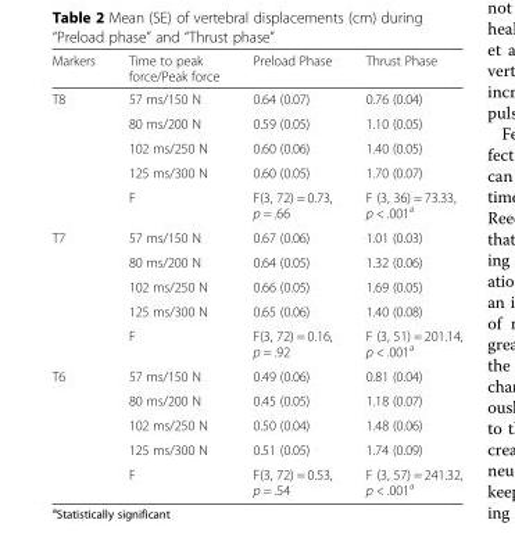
<table><thead><tr><td>Markers</td><td>Time to peak force/Peak force</td><td>Preload Phase</td><td>Thrust Phase</td></tr></thead><tbody><tr><td rowspan="5">T8</td><td>57 ms/150 N</td><td>0.64 (0.07)</td><td>0.76 (0.04)</td></tr><tr><td>80 ms/200 N</td><td>0.59 (0.05)</td><td>1.10 (0.05)</td></tr><tr><td>102 ms/250 N</td><td>0.60 (0.06)</td><td>1.40 (0.05)</td></tr><tr><td>125 ms/300 N</td><td>0.60 (0.05)</td><td>1.70 (0.07)</td></tr><tr><td>F</td><td>F(3, 72) = 0.73, p = .66</td><td>F (3, 36) = 73.33, p &lt; .001<sup>a</sup></td></tr><tr><td rowspan="5">T7</td><td>57 ms/150 N</td><td>0.67 (0.06)</td><td>1.01 (0.03)</td></tr><tr><td>80 ms/200 N</td><td>0.64 (0.05)</td><td>1.32 (0.06)</td></tr><tr><td>102 ms/250 N</td><td>0.66 (0.05)</td><td>1.69 (0.05)</td></tr><tr><td>125 ms/300 N</td><td>0.65 (0.06)</td><td>1.40 (0.08)</td></tr><tr><td>F</td><td>F(3, 72) = 0.16, p = .92</td><td>F (3, 51) = 201.14, p &lt; .001<sup>a</sup></td></tr><tr><td rowspan="5">T6</td><td>57 ms/150 N</td><td>0.49 (0.06)</td><td>0.81 (0.04)</td></tr><tr><td>80 ms/200 N</td><td>0.45 (0.05)</td><td>1.18 (0.07)</td></tr><tr><td>102 ms/250 N</td><td>0.50 (0.04)</td><td>1.48 (0.06)</td></tr><tr><td>125 ms/300 N</td><td>0.51 (0.05)</td><td>1.74 (0.09)</td></tr><tr><td>F</td><td>F(3, 72) = 0.53, p = .54</td><td>F (3, 57) = 241.32, p &lt; .001<sup>a</sup></td></tr></tbody></table>